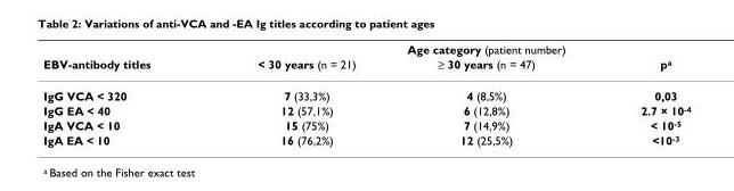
<table><thead><tr><td rowspan="2">EBV-antibody titles</td><td colspan="3">Age category (patient number)</td></tr><tr><td>&lt; 30 years (n = 21)</td><td>≥ 30 years (n = 47)</td><td>p<sup>a</sup></td></tr></thead><tbody><tr><td>IgG VCA &lt; 320</td><td>7 (33,3%)</td><td>4 (8,5%)</td><td>0,03</td></tr><tr><td>IgG EA &lt; 40</td><td>12 (57,1%)</td><td>6 (12,8%)</td><td>2.7 × 10<sup>-4</sup></td></tr><tr><td>IgA VCA &lt; 10</td><td>15 (75%)</td><td>7 (14,9%)</td><td>&lt; 10<sup>-5</sup></td></tr><tr><td>IgA EA &lt; 10</td><td>16 (76,2%)</td><td>12 (25,5%)</td><td>&lt;10<sup>-3</sup></td></tr></tbody></table>